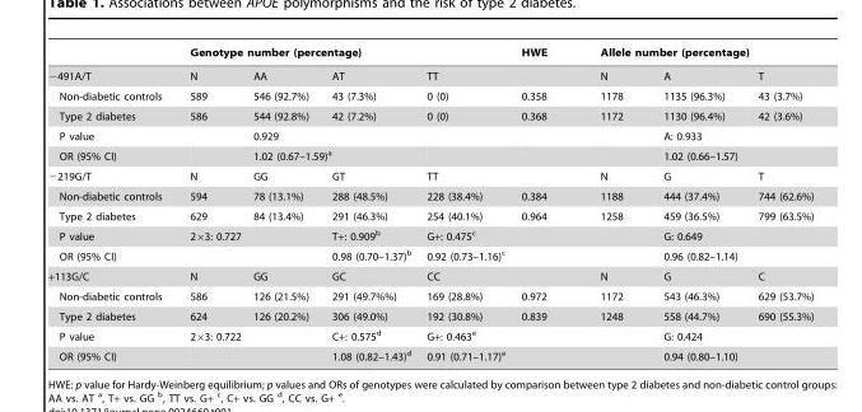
<table><thead><tr><td rowspan="2">−491A/T</td><td colspan="4">Genotype number (percentage)</td><td rowspan="2">HWE</td><td colspan="3">Allele number (percentage)</td></tr><tr><td>N</td><td>AA</td><td>AT</td><td>TT</td><td>N</td><td>A</td><td>T</td></tr></thead><tbody><tr><td>Non-diabetic controls</td><td>589</td><td>546 (92.7%)</td><td>43 (7.3%)</td><td>0 (0)</td><td>0.358</td><td>1178</td><td>1135 (96.3%)</td><td>43 (3.7%)</td></tr><tr><td>Type 2 diabetes</td><td>586</td><td>544 (92.8%)</td><td>42 (7.2%)</td><td>0 (0)</td><td>0.368</td><td>1172</td><td>1130 (96.4%)</td><td>42 (3.6%)</td></tr><tr><td>P value</td><td></td><td>0.929</td><td></td><td></td><td></td><td></td><td>A: 0.933</td><td></td></tr><tr><td>OR (95% CI)</td><td></td><td colspan="2">1.02 (0.67–1.59)<sup>a</sup></td><td></td><td></td><td></td><td colspan="2">1.02 (0.66–1.57)</td></tr><tr><td>−219G/T</td><td>N</td><td>GG</td><td>GT</td><td>TT</td><td></td><td>N</td><td>G</td><td>T</td></tr><tr><td>Non-diabetic controls</td><td>594</td><td>78 (13.1%)</td><td>288 (48.5%)</td><td>228 (38.4%)</td><td>0.384</td><td>1188</td><td>444 (37.4%)</td><td>744 (62.6%)</td></tr><tr><td>Type 2 diabetes</td><td>629</td><td>84 (13.4%)</td><td>291 (46.3%)</td><td>254 (40.1%)</td><td>0.964</td><td>1258</td><td>459 (36.5%)</td><td>799 (63.5%)</td></tr><tr><td>P value</td><td>2×3: 0.727</td><td></td><td>T+: 0.909<sup>b</sup></td><td>G+: 0.475<sup>c</sup></td><td></td><td></td><td>G: 0.649</td><td></td></tr><tr><td>OR (95% CI)</td><td></td><td></td><td>0.98 (0.70–1.37)<sup>b</sup></td><td>0.92 (0.73–1.16)<sup>c</sup></td><td></td><td></td><td colspan="2">0.96 (0.82–1.14)</td></tr><tr><td>+113G/C</td><td>N</td><td>GG</td><td>GC</td><td>CC</td><td></td><td>N</td><td>G</td><td>C</td></tr><tr><td>Non-diabetic controls</td><td>586</td><td>126 (21.5%)</td><td>291 (49.7%%)</td><td>169 (28.8%)</td><td>0.972</td><td>1172</td><td>543 (46.3%)</td><td>629 (53.7%)</td></tr><tr><td>Type 2 diabetes</td><td>624</td><td>126 (20.2%)</td><td>306 (49.0%)</td><td>192 (30.8%)</td><td>0.839</td><td>1248</td><td>558 (44.7%)</td><td>690 (55.3%)</td></tr><tr><td>P value</td><td>2×3: 0.722</td><td></td><td>C+: 0.575<sup>d</sup></td><td>G+: 0.463<sup>e</sup></td><td></td><td></td><td>G: 0.424</td><td></td></tr><tr><td>OR (95% CI)</td><td></td><td></td><td>1.08 (0.82–1.43)<sup>d</sup></td><td>0.91 (0.71–1.17)<sup>e</sup></td><td></td><td></td><td colspan="2">0.94 (0.80–1.10)</td></tr></tbody></table>